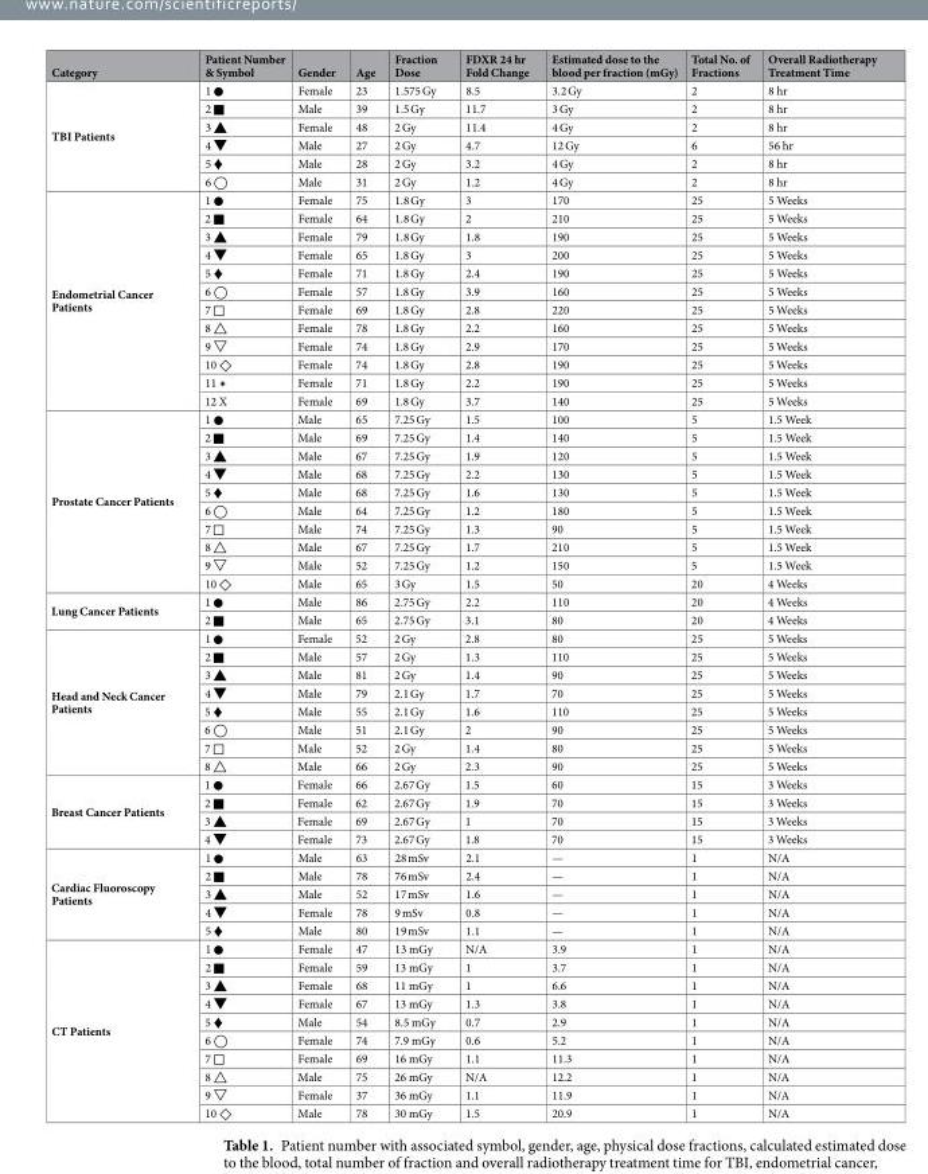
<table><thead><tr><td>Category</td><td>Patient Number &amp; Symbol</td><td>Gender</td><td>Age</td><td>Fraction Dose</td><td>FDXR 24 hr Fold Change</td><td>Estimated dose to the blood per fraction (mGy)</td><td>Total No. of Fractions</td><td>Overall Radiotherapy Treatment Time</td></tr></thead><tbody><tr><td rowspan="6">TBI Patients</td><td>1 ●</td><td>Female</td><td>23</td><td>1.575 Gy</td><td>8.5</td><td>3.2 Gy</td><td>2</td><td>8 hr</td></tr><tr><td>2 ■</td><td>Male</td><td>39</td><td>1.5 Gy</td><td>11.7</td><td>3 Gy</td><td>2</td><td>8 hr</td></tr><tr><td>3 ▲</td><td>Female</td><td>48</td><td>2 Gy</td><td>11.4</td><td>4 Gy</td><td>2</td><td>8 hr</td></tr><tr><td>4 ▼</td><td>Male</td><td>27</td><td>2 Gy</td><td>4.7</td><td>12 Gy</td><td>6</td><td>56 hr</td></tr><tr><td>5 ♦</td><td>Male</td><td>28</td><td>2 Gy</td><td>3.2</td><td>4 Gy</td><td>2</td><td>8 hr</td></tr><tr><td>6 ◯</td><td>Male</td><td>31</td><td>2 Gy</td><td>1.2</td><td>4 Gy</td><td>2</td><td>8 hr</td></tr><tr><td rowspan="12">Endometrial Cancer Patients</td><td>1 ●</td><td>Female</td><td>75</td><td>1.8 Gy</td><td>3</td><td>170</td><td>25</td><td>5 Weeks</td></tr><tr><td>2 ■</td><td>Female</td><td>64</td><td>1.8 Gy</td><td>2</td><td>210</td><td>25</td><td>5 Weeks</td></tr><tr><td>3 ▲</td><td>Female</td><td>79</td><td>1.8 Gy</td><td>1.8</td><td>190</td><td>25</td><td>5 Weeks</td></tr><tr><td>4 ▼</td><td>Female</td><td>65</td><td>1.8 Gy</td><td>3</td><td>200</td><td>25</td><td>5 Weeks</td></tr><tr><td>5 ♦</td><td>Female</td><td>71</td><td>1.8 Gy</td><td>2.4</td><td>190</td><td>25</td><td>5 Weeks</td></tr><tr><td>6 ◯</td><td>Female</td><td>57</td><td>1.8 Gy</td><td>3.9</td><td>160</td><td>25</td><td>5 Weeks</td></tr><tr><td>7 □</td><td>Female</td><td>69</td><td>1.8 Gy</td><td>2.8</td><td>220</td><td>25</td><td>5 Weeks</td></tr><tr><td>8 △</td><td>Female</td><td>78</td><td>1.8 Gy</td><td>2.2</td><td>160</td><td>25</td><td>5 Weeks</td></tr><tr><td>9 ▽</td><td>Female</td><td>74</td><td>1.8 Gy</td><td>2.9</td><td>170</td><td>25</td><td>5 Weeks</td></tr><tr><td>10 ◇</td><td>Female</td><td>74</td><td>1.8 Gy</td><td>2.8</td><td>190</td><td>25</td><td>5 Weeks</td></tr><tr><td>11 ✴</td><td>Female</td><td>71</td><td>1.8 Gy</td><td>2.2</td><td>190</td><td>25</td><td>5 Weeks</td></tr><tr><td>12 X</td><td>Female</td><td>69</td><td>1.8 Gy</td><td>3.7</td><td>140</td><td>25</td><td>5 Weeks</td></tr><tr><td rowspan="10">Prostate Cancer Patients</td><td>1 ●</td><td>Male</td><td>65</td><td>7.25 Gy</td><td>1.5</td><td>100</td><td>5</td><td>1.5 Week</td></tr><tr><td>2 ■</td><td>Male</td><td>69</td><td>7.25 Gy</td><td>1.4</td><td>140</td><td>5</td><td>1.5 Week</td></tr><tr><td>3 ▲</td><td>Male</td><td>67</td><td>7.25 Gy</td><td>1.9</td><td>120</td><td>5</td><td>1.5 Week</td></tr><tr><td>4 ▼</td><td>Male</td><td>68</td><td>7.25 Gy</td><td>2.2</td><td>130</td><td>5</td><td>1.5 Week</td></tr><tr><td>5 ♦</td><td>Male</td><td>68</td><td>7.25 Gy</td><td>1.6</td><td>130</td><td>5</td><td>1.5 Week</td></tr><tr><td>6 ◯</td><td>Male</td><td>64</td><td>7.25 Gy</td><td>1.2</td><td>180</td><td>5</td><td>1.5 Week</td></tr><tr><td>7 □</td><td>Male</td><td>74</td><td>7.25 Gy</td><td>1.3</td><td>90</td><td>5</td><td>1.5 Week</td></tr><tr><td>8 △</td><td>Male</td><td>67</td><td>7.25 Gy</td><td>1.7</td><td>210</td><td>5</td><td>1.5 Week</td></tr><tr><td>9 ▽</td><td>Male</td><td>52</td><td>7.25 Gy</td><td>1.2</td><td>150</td><td>5</td><td>1.5 Week</td></tr><tr><td>10 ◇</td><td>Male</td><td>65</td><td>3 Gy</td><td>1.5</td><td>50</td><td>20</td><td>4 Weeks</td></tr><tr><td rowspan="2">Lung Cancer Patients</td><td>1 ●</td><td>Male</td><td>86</td><td>2.75 Gy</td><td>2.2</td><td>110</td><td>20</td><td>4 Weeks</td></tr><tr><td>2 ■</td><td>Male</td><td>65</td><td>2.75 Gy</td><td>3.1</td><td>80</td><td>20</td><td>4 Weeks</td></tr><tr><td rowspan="8">Head and Neck Cancer Patients</td><td>1 ●</td><td>Female</td><td>52</td><td>2 Gy</td><td>2.8</td><td>80</td><td>25</td><td>5 Weeks</td></tr><tr><td>2 ■</td><td>Male</td><td>57</td><td>2 Gy</td><td>1.3</td><td>110</td><td>25</td><td>5 Weeks</td></tr><tr><td>3 ▲</td><td>Male</td><td>81</td><td>2 Gy</td><td>1.4</td><td>90</td><td>25</td><td>5 Weeks</td></tr><tr><td>4 ▼</td><td>Male</td><td>79</td><td>2.1 Gy</td><td>1.7</td><td>70</td><td>25</td><td>5 Weeks</td></tr><tr><td>5 ♦</td><td>Male</td><td>55</td><td>2.1 Gy</td><td>1.6</td><td>110</td><td>25</td><td>5 Weeks</td></tr><tr><td>6 ◯</td><td>Male</td><td>51</td><td>2.1 Gy</td><td>2</td><td>90</td><td>25</td><td>5 Weeks</td></tr><tr><td>7 □</td><td>Male</td><td>52</td><td>2 Gy</td><td>1.4</td><td>80</td><td>25</td><td>5 Weeks</td></tr><tr><td>8 △</td><td>Male</td><td>66</td><td>2 Gy</td><td>2.3</td><td>90</td><td>25</td><td>5 Weeks</td></tr><tr><td rowspan="4">Breast Cancer Patients</td><td>1 ●</td><td>Female</td><td>66</td><td>2.67 Gy</td><td>1.5</td><td>60</td><td>15</td><td>3 Weeks</td></tr><tr><td>2 ■</td><td>Female</td><td>62</td><td>2.67 Gy</td><td>1.9</td><td>70</td><td>15</td><td>3 Weeks</td></tr><tr><td>3 ▲</td><td>Female</td><td>69</td><td>2.67 Gy</td><td>1</td><td>70</td><td>15</td><td>3 Weeks</td></tr><tr><td>4 ▼</td><td>Female</td><td>73</td><td>2.67 Gy</td><td>1.8</td><td>70</td><td>15</td><td>3 Weeks</td></tr><tr><td rowspan="5">Cardiac Fluoroscopy Patients</td><td>1 ●</td><td>Male</td><td>63</td><td>28 mSv</td><td>2.1</td><td>—</td><td>1</td><td>N/A</td></tr><tr><td>2 ■</td><td>Male</td><td>78</td><td>76 mSv</td><td>2.4</td><td>—</td><td>1</td><td>N/A</td></tr><tr><td>3 ▲</td><td>Male</td><td>52</td><td>17 mSv</td><td>1.6</td><td>—</td><td>1</td><td>N/A</td></tr><tr><td>4 ▼</td><td>Female</td><td>78</td><td>9 mSv</td><td>0.8</td><td>—</td><td>1</td><td>N/A</td></tr><tr><td>5 ♦</td><td>Male</td><td>80</td><td>19 mSv</td><td>1.1</td><td>—</td><td>1</td><td>N/A</td></tr><tr><td rowspan="10">CT Patients</td><td>1 ●</td><td>Female</td><td>47</td><td>13 mGy</td><td>N/A</td><td>3.9</td><td>1</td><td>N/A</td></tr><tr><td>2 ■</td><td>Female</td><td>59</td><td>13 mGy</td><td>1</td><td>3.7</td><td>1</td><td>N/A</td></tr><tr><td>3 ▲</td><td>Female</td><td>68</td><td>11 mGy</td><td>1</td><td>6.6</td><td>1</td><td>N/A</td></tr><tr><td>4 ▼</td><td>Female</td><td>67</td><td>13 mGy</td><td>1.3</td><td>3.8</td><td>1</td><td>N/A</td></tr><tr><td>5 ♦</td><td>Male</td><td>54</td><td>8.5 mGy</td><td>0.7</td><td>2.9</td><td>1</td><td>N/A</td></tr><tr><td>6 ◯</td><td>Female</td><td>74</td><td>7.9 mGy</td><td>0.6</td><td>5.2</td><td>1</td><td>N/A</td></tr><tr><td>7 □</td><td>Female</td><td>69</td><td>16 mGy</td><td>1.1</td><td>11.3</td><td>1</td><td>N/A</td></tr><tr><td>8 △</td><td>Male</td><td>75</td><td>26 mGy</td><td>N/A</td><td>12.2</td><td>1</td><td>N/A</td></tr><tr><td>9 ▽</td><td>Female</td><td>37</td><td>36 mGy</td><td>1.1</td><td>11.9</td><td>1</td><td>N/A</td></tr><tr><td>10 ◇</td><td>Male</td><td>78</td><td>30 mGy</td><td>1.5</td><td>20.9</td><td>1</td><td>N/A</td></tr></tbody></table>